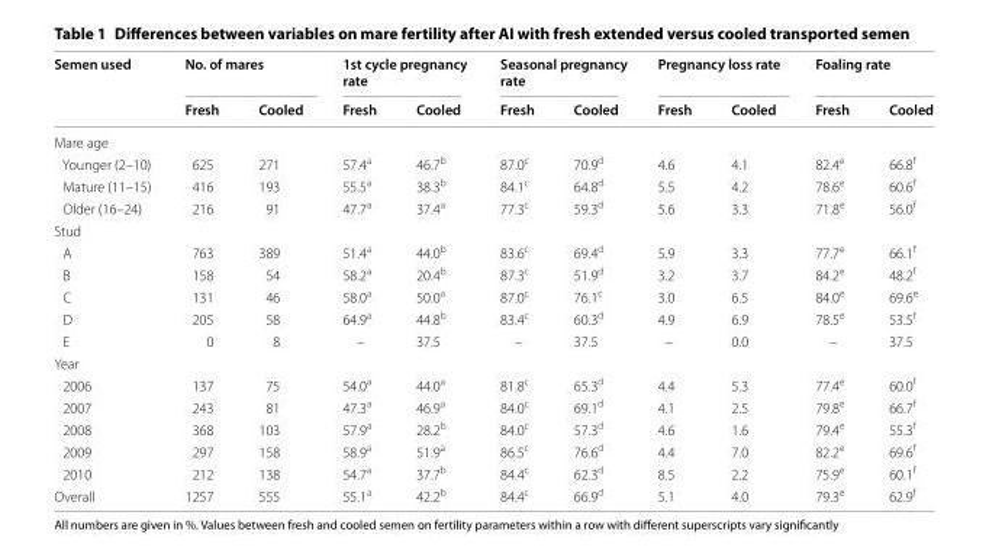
<table><thead><tr><td rowspan="2">Semen used</td><td colspan="2">No. of mares</td><td colspan="2">1st cycle pregnancy rate</td><td colspan="2">Seasonal pregnancy rate</td><td colspan="2">Pregnancy loss rate</td><td colspan="2">Foaling rate</td></tr><tr><td>Fresh</td><td>Cooled</td><td>Fresh</td><td>Cooled</td><td>Fresh</td><td>Cooled</td><td>Fresh</td><td>Cooled</td><td>Fresh</td><td>Cooled</td></tr></thead><tbody><tr><td colspan="11">Mare age</td></tr><tr><td>Younger (2–10)</td><td>625</td><td>271</td><td>57.4<sup>a</sup></td><td>46.7<sup>b</sup></td><td>87.0<sup>c</sup></td><td>70.9<sup>d</sup></td><td>4.6</td><td>4.1</td><td>82.4<sup>e</sup></td><td>66.8<sup>f</sup></td></tr><tr><td>Mature (11–15)</td><td>416</td><td>193</td><td>55.5<sup>a</sup></td><td>38.3<sup>b</sup></td><td>84.1<sup>c</sup></td><td>64.8<sup>d</sup></td><td>5.5</td><td>4.2</td><td>78.6<sup>e</sup></td><td>60.6<sup>f</sup></td></tr><tr><td>Older (16–24)</td><td>216</td><td>91</td><td>47.7<sup>a</sup></td><td>37.4<sup>a</sup></td><td>77.3<sup>c</sup></td><td>59.3<sup>d</sup></td><td>5.6</td><td>3.3</td><td>71.8<sup>e</sup></td><td>56.0<sup>f</sup></td></tr><tr><td colspan="11">Stud</td></tr><tr><td>A</td><td>763</td><td>389</td><td>51.4<sup>a</sup></td><td>44.0<sup>b</sup></td><td>83.6<sup>c</sup></td><td>69.4<sup>d</sup></td><td>5.9</td><td>3.3</td><td>77.7<sup>e</sup></td><td>66.1<sup>f</sup></td></tr><tr><td>B</td><td>158</td><td>54</td><td>58.2<sup>a</sup></td><td>20.4<sup>b</sup></td><td>87.3<sup>c</sup></td><td>51.9<sup>d</sup></td><td>3.2</td><td>3.7</td><td>84.2<sup>e</sup></td><td>48.2<sup>f</sup></td></tr><tr><td>C</td><td>131</td><td>46</td><td>58.0<sup>a</sup></td><td>50.0<sup>a</sup></td><td>87.0<sup>c</sup></td><td>76.1<sup>c</sup></td><td>3.0</td><td>6.5</td><td>84.0<sup>e</sup></td><td>69.6<sup>e</sup></td></tr><tr><td>D</td><td>205</td><td>58</td><td>64.9<sup>a</sup></td><td>44.8<sup>b</sup></td><td>83.4<sup>c</sup></td><td>60.3<sup>d</sup></td><td>4.9</td><td>6.9</td><td>78.5<sup>e</sup></td><td>53.5<sup>f</sup></td></tr><tr><td>E</td><td>0</td><td>8</td><td>–</td><td>37.5</td><td>–</td><td>37.5</td><td>–</td><td>0.0</td><td>–</td><td>37.5</td></tr><tr><td colspan="11">Year</td></tr><tr><td>2006</td><td>137</td><td>75</td><td>54.0<sup>a</sup></td><td>44.0<sup>a</sup></td><td>81.8<sup>c</sup></td><td>65.3<sup>d</sup></td><td>4.4</td><td>5.3</td><td>77.4<sup>e</sup></td><td>60.0<sup>f</sup></td></tr><tr><td>2007</td><td>243</td><td>81</td><td>47.3<sup>a</sup></td><td>46.9<sup>a</sup></td><td>84.0<sup>c</sup></td><td>69.1<sup>d</sup></td><td>4.1</td><td>2.5</td><td>79.8<sup>e</sup></td><td>66.7<sup>f</sup></td></tr><tr><td>2008</td><td>368</td><td>103</td><td>57.9<sup>a</sup></td><td>28.2<sup>b</sup></td><td>84.0<sup>c</sup></td><td>57.3<sup>d</sup></td><td>4.6</td><td>1.6</td><td>79.4<sup>e</sup></td><td>55.3<sup>f</sup></td></tr><tr><td>2009</td><td>297</td><td>158</td><td>58.9<sup>a</sup></td><td>51.9<sup>a</sup></td><td>86.5<sup>c</sup></td><td>76.6<sup>d</sup></td><td>4.4</td><td>7.0</td><td>82.2<sup>e</sup></td><td>69.6<sup>f</sup></td></tr><tr><td>2010</td><td>212</td><td>138</td><td>54.7<sup>a</sup></td><td>37.7<sup>b</sup></td><td>84.4<sup>c</sup></td><td>62.3<sup>d</sup></td><td>8.5</td><td>2.2</td><td>75.9<sup>e</sup></td><td>60.1<sup>f</sup></td></tr><tr><td>Overall</td><td>1257</td><td>555</td><td>55.1<sup>a</sup></td><td>42.2<sup>b</sup></td><td>84.4<sup>c</sup></td><td>66.9<sup>d</sup></td><td>5.1</td><td>4.0</td><td>79.3<sup>e</sup></td><td>62.9<sup>f</sup></td></tr></tbody></table>